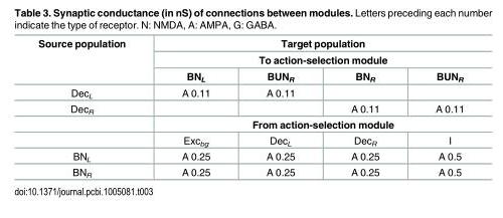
<table><thead><tr><td rowspan="3">Source population</td><td rowspan="2" colspan="4">Target population To action-selection module</td></tr><tr></tr><tr><td>BN<sub>L</sub></td><td>BUN<sub>R</sub></td><td>BN<sub>R</sub></td><td>BUN<sub>R</sub></td></tr></thead><tbody><tr><td>Dec<sub>L</sub></td><td>A 0.11</td><td>A 0.11</td><td></td><td></td></tr><tr><td rowspan="3">Dec<sub>R</sub></td><td></td><td></td><td>A 0.11</td><td>A 0.11</td></tr><tr><td colspan="4">From action-selection module</td></tr><tr><td>Exc<sub>bg</sub></td><td>Dec<sub>L</sub></td><td>Dec<sub>R</sub></td><td>I</td></tr><tr><td>BN<sub>L</sub></td><td>A 0.25</td><td>A 0.25</td><td>A 0.25</td><td>A 0.5</td></tr><tr><td>BN<sub>R</sub></td><td>A 0.25</td><td>A 0.25</td><td>A 0.25</td><td>A 0.5</td></tr></tbody></table>